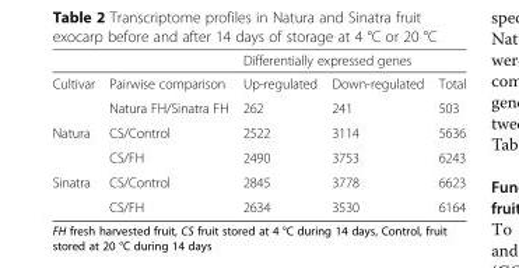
<table><thead><tr><td rowspan="2">Cultivar</td><td rowspan="2">Pairwise comparison</td><td colspan="3">Differentially expressed genes</td></tr><tr><td>Up-regulated</td><td>Down-regulated</td><td>Total</td></tr></thead><tbody><tr><td></td><td>Natura FH/Sinatra FH</td><td>262</td><td>241</td><td>503</td></tr><tr><td rowspan="2">Natura</td><td>CS/Control</td><td>2522</td><td>3114</td><td>5636</td></tr><tr><td>CS/FH</td><td>2490</td><td>3753</td><td>6243</td></tr><tr><td rowspan="2">Sinatra</td><td>CS/Control</td><td>2845</td><td>3778</td><td>6623</td></tr><tr><td>CS/FH</td><td>2634</td><td>3530</td><td>6164</td></tr></tbody></table>